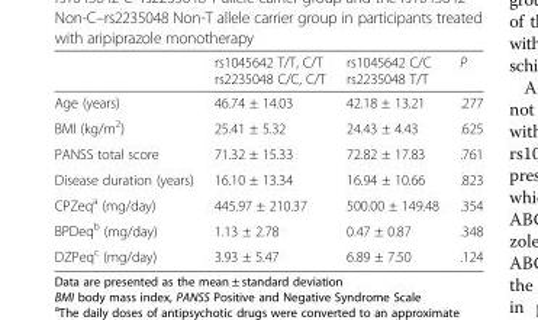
<table><thead><tr><td></td><td>rs1045642 T/T, C/T rs2235048 C/C, C/T</td><td>rs1045642 C/C rs2235048 T/T</td><td>P</td></tr></thead><tbody><tr><td>Age (years)</td><td>46.74 ± 14.03</td><td>42.18 ± 13.21</td><td>.277</td></tr><tr><td>BMI (kg/m<sup>2</sup>)</td><td>25.41 ± 5.32</td><td>24.43 ± 4.43</td><td>.625</td></tr><tr><td>PANSS total score</td><td>71.32 ± 15.33</td><td>72.82 ± 17.83</td><td>.761</td></tr><tr><td>Disease duration (years)</td><td>16.10 ± 13.34</td><td>16.94 ± 10.66</td><td>.823</td></tr><tr><td>CPZeq<sup>a</sup> (mg/day)</td><td>445.97 ± 210.37</td><td>500.00 ± 149.48</td><td>.354</td></tr><tr><td>BPDeq<sup>b</sup> (mg/day)</td><td>1.13 ± 2.78</td><td>0.47 ± 0.87</td><td>.348</td></tr><tr><td>DZPeq<sup>c</sup> (mg/day)</td><td>3.93 ± 5.47</td><td>6.89 ± 7.50</td><td>.124</td></tr></tbody></table>